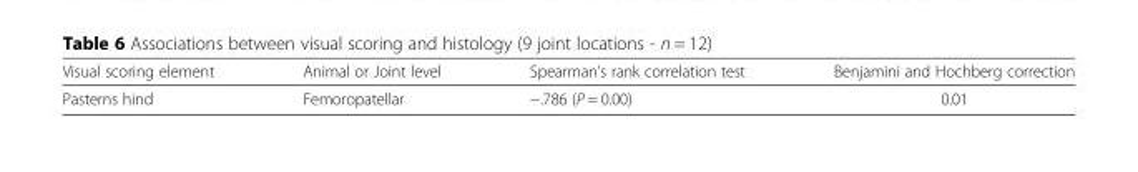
<table><thead><tr><td>Visual scoring element</td><td>Animal or Joint level</td><td>Spearman’s rank correlation test</td><td>Benjamini and Hochberg correction</td></tr></thead><tbody><tr><td>Pasterns hind</td><td>Femoropatellar</td><td>−.786 (P = 0.00)</td><td>0.01</td></tr></tbody></table>